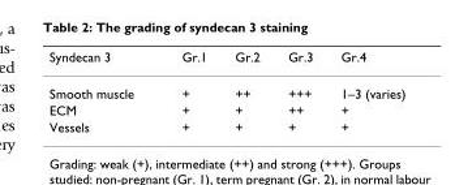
<table><thead><tr><td>Syndecan 3</td><td>Gr.1</td><td>Gr.2</td><td>Gr.3</td><td>Gr.4</td></tr></thead><tbody><tr><td>Smooth muscle</td><td>+</td><td>++</td><td>+++</td><td>1–3 (varies)</td></tr><tr><td>ECM</td><td>+</td><td>+</td><td>++</td><td>+</td></tr><tr><td>Vessels</td><td>+</td><td>+</td><td>+</td><td>+</td></tr></tbody></table>